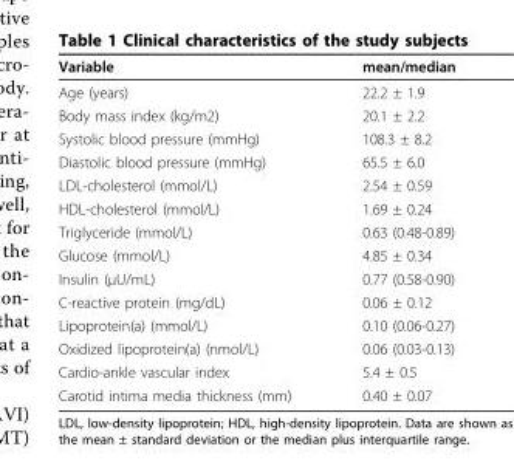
<table><thead><tr><td>Variable</td><td>mean/median</td></tr></thead><tbody><tr><td>Age (years)</td><td>22.2 ± 1.9</td></tr><tr><td>Body mass index (kg/m2)</td><td>20.1 ± 2.2</td></tr><tr><td>Systolic blood pressure (mmHg)</td><td>108.3 ± 8.2</td></tr><tr><td>Diastolic blood pressure (mmHg)</td><td>65.5 ± 6.0</td></tr><tr><td>LDL-cholesterol (mmol/L)</td><td>2.54 ± 0.59</td></tr><tr><td>HDL-cholesterol (mmol/L)</td><td>1.69 ± 0.24</td></tr><tr><td>Triglyceride (mmol/L)</td><td>0.63 (0.48-0.89)</td></tr><tr><td>Glucose (mmol/L)</td><td>4.85 ± 0.34</td></tr><tr><td>Insulin (μU/mL)</td><td>0.77 (0.58-0.90)</td></tr><tr><td>C-reactive protein (mg/dL)</td><td>0.06 ± 0.12</td></tr><tr><td>Lipoprotein(a) (mmol/L)</td><td>0.10 (0.06-0.27)</td></tr><tr><td>Oxidized lipoprotein(a) (nmol/L)</td><td>0.06 (0.03-0.13)</td></tr><tr><td>Cardio-ankle vascular index</td><td>5.4 ± 0.5</td></tr><tr><td>Carotid intima media thickness (mm)</td><td>0.40 ± 0.07</td></tr></tbody></table>